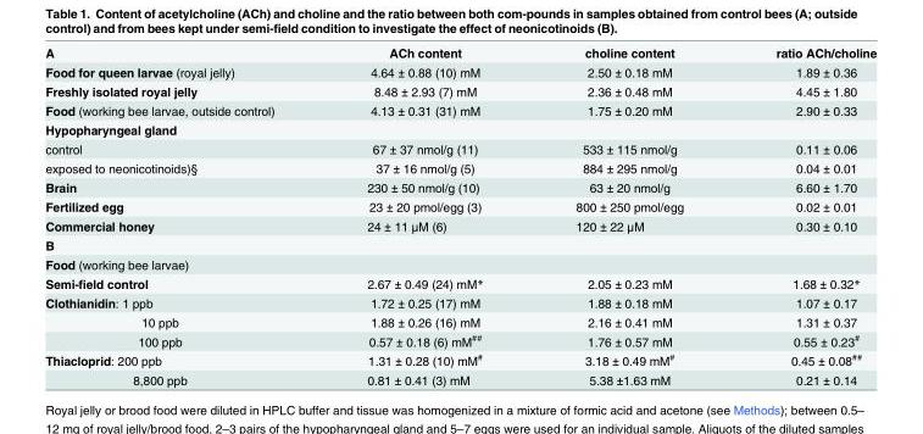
<table><tbody><tr><td>A</td><td>ACh content</td><td>choline content</td><td>ratio ACh/choline</td></tr><tr><td>Food for queen larvae (royal jelly)</td><td>4.64 ± 0.88 (10) mM</td><td>2.50 ± 0.18 mM</td><td>1.89 ± 0.36</td></tr><tr><td>Freshly isolated royal jelly</td><td>8.48 ± 2.93 (7) mM</td><td>2.36 ± 0.48 mM</td><td>4.45 ± 1.80</td></tr><tr><td>Food (working bee larvae, outside control)</td><td>4.13 ± 0.31 (31) mM</td><td>1.75 ± 0.20 mM</td><td>2.90 ± 0.33</td></tr><tr><td colspan="4">Hypopharyngeal gland</td></tr><tr><td>control</td><td>67 ± 37 nmol/g (11)</td><td>533 ± 115 nmol/g</td><td>0.11 ± 0.06</td></tr><tr><td>exposed to neonicotinoids)§</td><td>37 ± 16 nmol/g (5)</td><td>884 ± 295 nmol/g</td><td>0.04 ± 0.01</td></tr><tr><td>Brain</td><td>230 ± 50 nmol/g (10)</td><td>63 ± 20 nmol/g</td><td>6.60 ± 1.70</td></tr><tr><td>Fertilized egg</td><td>23 ± 20 pmol/egg (3)</td><td>800 ± 250 pmol/egg</td><td>0.02 ± 0.01</td></tr><tr><td>Commercial honey</td><td>24 ± 11 μM (6)</td><td>120 ± 22 μM</td><td>0.30 ± 0.10</td></tr><tr><td colspan="4">B</td></tr><tr><td colspan="4">Food (working bee larvae)</td></tr><tr><td>Semi-field control</td><td>2.67 ± 0.49 (24) mM*</td><td>2.05 ± 0.23 mM</td><td>1.68 ± 0.32*</td></tr><tr><td>Clothianidin: 1 ppb</td><td>1.72 ± 0.25 (17) mM</td><td>1.88 ± 0.18 mM</td><td>1.07 ± 0.17</td></tr><tr><td>10 ppb</td><td>1.88 ± 0.26 (16) mM</td><td>2.16 ± 0.41 mM</td><td>1.31 ± 0.37</td></tr><tr><td>100 ppb</td><td>0.57 ± 0.18 (6) mM<sup>##</sup></td><td>1.76 ± 0.57 mM</td><td>0.55 ± 0.23<sup>#</sup></td></tr><tr><td>Thiacloprid: 200 ppb</td><td>1.31 ± 0.28 (10) mM<sup>#</sup></td><td>3.18 ± 0.49 mM<sup>#</sup></td><td>0.45 ± 0.08<sup>##</sup></td></tr><tr><td>8,800 ppb</td><td>0.81 ± 0.41 (3) mM</td><td>5.38 ±1.63 mM</td><td>0.21 ± 0.14</td></tr></tbody></table>